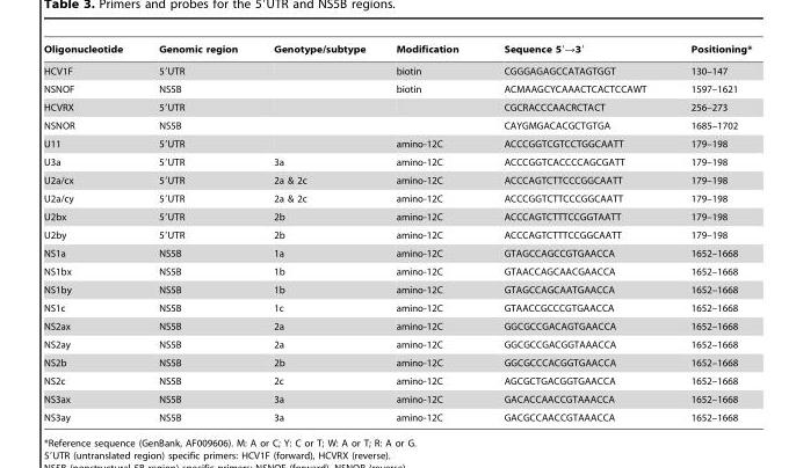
<table><thead><tr><td>Oligonucleotide</td><td>Genomic region</td><td>Genotype/subtype</td><td>Modification</td><td>Sequence 5′→3′</td><td>Positioning*</td></tr></thead><tbody><tr><td>HCV1F</td><td>5′UTR</td><td></td><td>biotin</td><td>CGGGAGAGCCATAGTGGT</td><td>130–147</td></tr><tr><td>NSNOF</td><td>NS5B</td><td></td><td>biotin</td><td>ACMAAGCYCAAACTCACTCCAWT</td><td>1597–1621</td></tr><tr><td>HCVRX</td><td>5′UTR</td><td></td><td></td><td>CGCRACCCAACRCTACT</td><td>256–273</td></tr><tr><td>NSNOR</td><td>NS5B</td><td></td><td></td><td>CAYGMGACACGCTGTGA</td><td>1685–1702</td></tr><tr><td>U11</td><td>5′UTR</td><td></td><td>amino-12C</td><td>ACCCGGTCGTCCTGGCAATT</td><td>179–198</td></tr><tr><td>U3a</td><td>5′UTR</td><td>3a</td><td>amino-12C</td><td>ACCCGGTCACCCCAGCGATT</td><td>179–198</td></tr><tr><td>U2a/cx</td><td>5′UTR</td><td>2a &amp; 2c</td><td>amino-12C</td><td>ACCCAGTCTTCCCGGCAATT</td><td>179–198</td></tr><tr><td>U2a/cy</td><td>5′UTR</td><td>2a &amp; 2c</td><td>amino-12C</td><td>ACCCGGTCTTCCCGGCAATT</td><td>179–198</td></tr><tr><td>U2bx</td><td>5′UTR</td><td>2b</td><td>amino-12C</td><td>ACCCAGTCTTTCCGGTAATT</td><td>179–198</td></tr><tr><td>U2by</td><td>5′UTR</td><td>2b</td><td>amino-12C</td><td>ACCCAGTCTTTCCGGCAATT</td><td>179–198</td></tr><tr><td>NS1a</td><td>NS5B</td><td>1a</td><td>amino-12C</td><td>GTAGCCAGCCGTGAACCA</td><td>1652–1668</td></tr><tr><td>NS1bx</td><td>NS5B</td><td>1b</td><td>amino-12C</td><td>GTAACCAGCAACGAACCA</td><td>1652–1668</td></tr><tr><td>NS1by</td><td>NS5B</td><td>1b</td><td>amino-12C</td><td>GTAGCCAGCAATGAACCA</td><td>1652–1668</td></tr><tr><td>NS1c</td><td>NS5B</td><td>1c</td><td>amino-12C</td><td>GTAACCGCCCGTGAACCA</td><td>1652–1668</td></tr><tr><td>NS2ax</td><td>NS5B</td><td>2a</td><td>amino-12C</td><td>GGCGCCGACAGTGAACCA</td><td>1652–1668</td></tr><tr><td>NS2ay</td><td>NS5B</td><td>2a</td><td>amino-12C</td><td>GGCGCCGACGGTAAACCA</td><td>1652–1668</td></tr><tr><td>NS2b</td><td>NS5B</td><td>2b</td><td>amino-12C</td><td>GGCGCCCACGGTGAACCA</td><td>1652–1668</td></tr><tr><td>NS2c</td><td>NS5B</td><td>2c</td><td>amino-12C</td><td>AGCGCTGACGGTGAACCA</td><td>1652–1668</td></tr><tr><td>NS3ax</td><td>NS5B</td><td>3a</td><td>amino-12C</td><td>GACACCAACCGTAAACCA</td><td>1652–1668</td></tr><tr><td>NS3ay</td><td>NS5B</td><td>3a</td><td>amino-12C</td><td>GACGCCAACCGTAAACCA</td><td>1652–1668</td></tr></tbody></table>